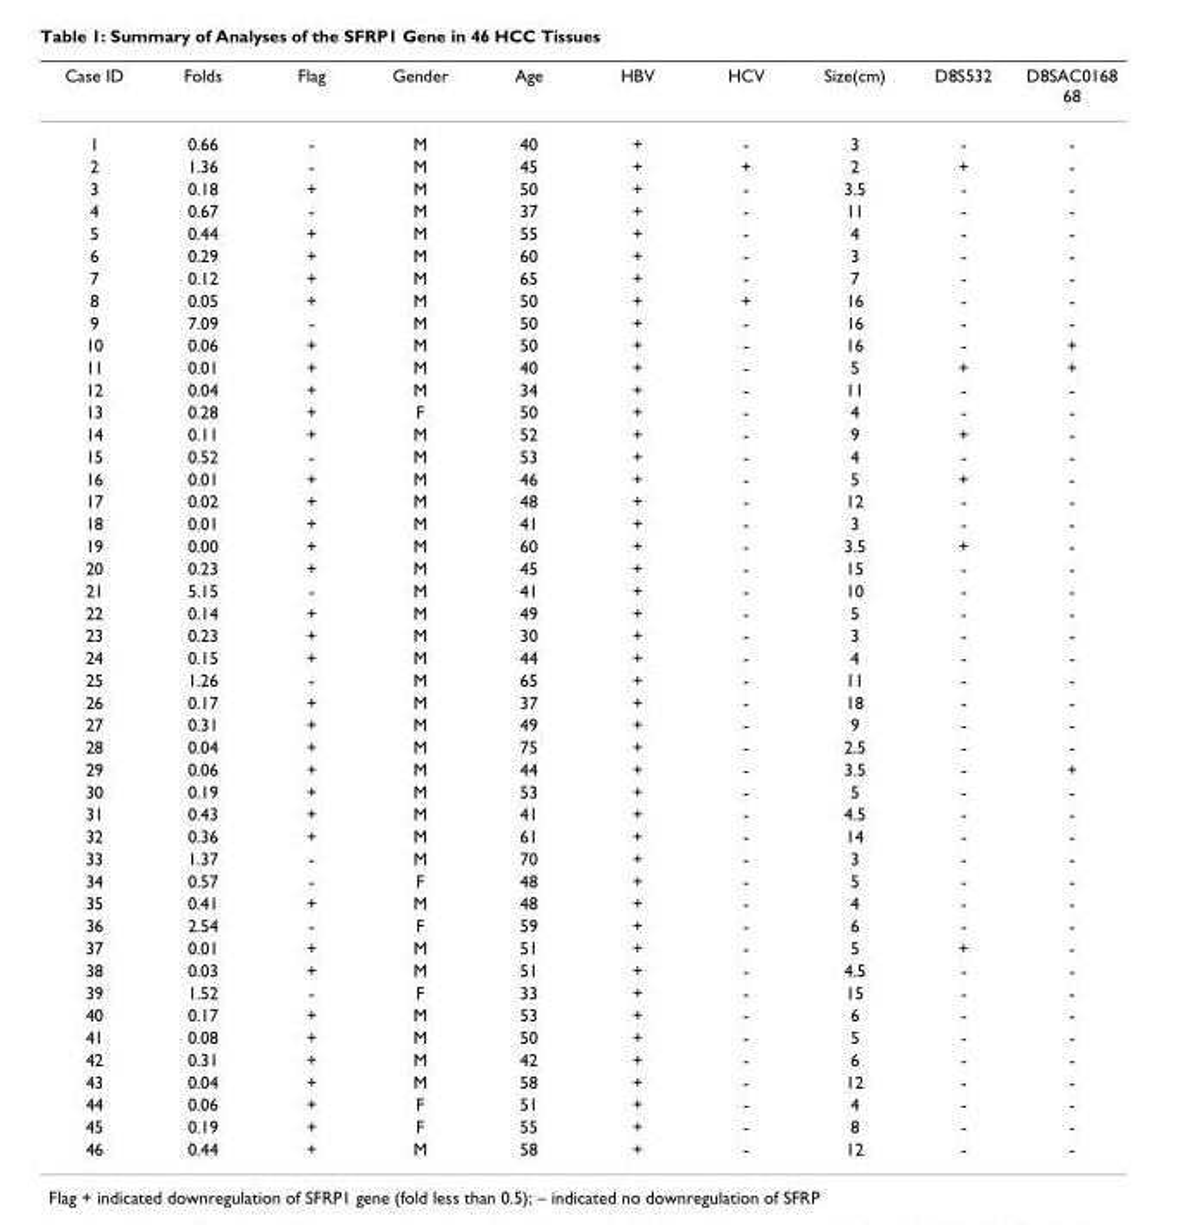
<table><thead><tr><td>Case ID</td><td>Folds</td><td>Flag</td><td>Gender</td><td>Age</td><td>HBV</td><td>HCV</td><td>Size(cm)</td><td>D8S532</td><td>D8SAC0168 68</td></tr></thead><tbody><tr><td>1</td><td>0.66</td><td>-</td><td>M</td><td>40</td><td>+</td><td>-</td><td>3</td><td>-</td><td>-</td></tr><tr><td>2</td><td>1.36</td><td>-</td><td>M</td><td>45</td><td>+</td><td>+</td><td>2</td><td>+</td><td>-</td></tr><tr><td>3</td><td>0.18</td><td>+</td><td>M</td><td>50</td><td>+</td><td>-</td><td>3.5</td><td>-</td><td>-</td></tr><tr><td>4</td><td>0.67</td><td>-</td><td>M</td><td>37</td><td>+</td><td>-</td><td>11</td><td>-</td><td>-</td></tr><tr><td>5</td><td>0.44</td><td>+</td><td>M</td><td>55</td><td>+</td><td>-</td><td>4</td><td>-</td><td>-</td></tr><tr><td>6</td><td>0.29</td><td>+</td><td>M</td><td>60</td><td>+</td><td>-</td><td>3</td><td>-</td><td>-</td></tr><tr><td>7</td><td>0.12</td><td>+</td><td>M</td><td>65</td><td>+</td><td>-</td><td>7</td><td>-</td><td>-</td></tr><tr><td>8</td><td>0.05</td><td>+</td><td>M</td><td>50</td><td>+</td><td>+</td><td>16</td><td>-</td><td>-</td></tr><tr><td>9</td><td>7.09</td><td>-</td><td>M</td><td>50</td><td>+</td><td>-</td><td>16</td><td>-</td><td>-</td></tr><tr><td>10</td><td>0.06</td><td>+</td><td>M</td><td>50</td><td>+</td><td>-</td><td>16</td><td>-</td><td>+</td></tr><tr><td>11</td><td>0.01</td><td>+</td><td>M</td><td>40</td><td>+</td><td>-</td><td>5</td><td>+</td><td>+</td></tr><tr><td>12</td><td>0.04</td><td>+</td><td>M</td><td>34</td><td>+</td><td>-</td><td>11</td><td>-</td><td>-</td></tr><tr><td>13</td><td>0.28</td><td>+</td><td>F</td><td>50</td><td>+</td><td>-</td><td>4</td><td>-</td><td>-</td></tr><tr><td>14</td><td>0.11</td><td>+</td><td>M</td><td>52</td><td>+</td><td>-</td><td>9</td><td>+</td><td>-</td></tr><tr><td>15</td><td>0.52</td><td>-</td><td>M</td><td>53</td><td>+</td><td>-</td><td>4</td><td>-</td><td>-</td></tr><tr><td>16</td><td>0.01</td><td>+</td><td>M</td><td>46</td><td>+</td><td>-</td><td>5</td><td>+</td><td>-</td></tr><tr><td>17</td><td>0.02</td><td>+</td><td>M</td><td>48</td><td>+</td><td>-</td><td>12</td><td>-</td><td>-</td></tr><tr><td>18</td><td>0.01</td><td>+</td><td>M</td><td>41</td><td>+</td><td>-</td><td>3</td><td>-</td><td>-</td></tr><tr><td>19</td><td>0.00</td><td>+</td><td>M</td><td>60</td><td>+</td><td>-</td><td>3.5</td><td>+</td><td>-</td></tr><tr><td>20</td><td>0.23</td><td>+</td><td>M</td><td>45</td><td>+</td><td>-</td><td>15</td><td>-</td><td>-</td></tr><tr><td>21</td><td>5.15</td><td>-</td><td>M</td><td>41</td><td>+</td><td>-</td><td>10</td><td>-</td><td>-</td></tr><tr><td>22</td><td>0.14</td><td>+</td><td>M</td><td>49</td><td>+</td><td>-</td><td>5</td><td>-</td><td>-</td></tr><tr><td>23</td><td>0.23</td><td>+</td><td>M</td><td>30</td><td>+</td><td>-</td><td>3</td><td>-</td><td>-</td></tr><tr><td>24</td><td>0.15</td><td>+</td><td>M</td><td>44</td><td>+</td><td>-</td><td>4</td><td>-</td><td>-</td></tr><tr><td>25</td><td>1.26</td><td>-</td><td>M</td><td>65</td><td>+</td><td>-</td><td>11</td><td>-</td><td>-</td></tr><tr><td>26</td><td>0.17</td><td>+</td><td>M</td><td>37</td><td>+</td><td>-</td><td>18</td><td>-</td><td>-</td></tr><tr><td>27</td><td>0.31</td><td>+</td><td>M</td><td>49</td><td>+</td><td>-</td><td>9</td><td>-</td><td>-</td></tr><tr><td>28</td><td>0.04</td><td>+</td><td>M</td><td>75</td><td>+</td><td>-</td><td>2.5</td><td>-</td><td>-</td></tr><tr><td>29</td><td>0.06</td><td>+</td><td>M</td><td>44</td><td>+</td><td>-</td><td>3.5</td><td>-</td><td>+</td></tr><tr><td>30</td><td>0.19</td><td>+</td><td>M</td><td>53</td><td>+</td><td>-</td><td>5</td><td>-</td><td>-</td></tr><tr><td>31</td><td>0.43</td><td>+</td><td>M</td><td>41</td><td>+</td><td>-</td><td>4.5</td><td>-</td><td>-</td></tr><tr><td>32</td><td>0.36</td><td>+</td><td>M</td><td>61</td><td>+</td><td>-</td><td>14</td><td>-</td><td>-</td></tr><tr><td>33</td><td>1.37</td><td>-</td><td>M</td><td>70</td><td>+</td><td>-</td><td>3</td><td>-</td><td>-</td></tr><tr><td>34</td><td>0.57</td><td>-</td><td>F</td><td>48</td><td>+</td><td>-</td><td>5</td><td>-</td><td>-</td></tr><tr><td>35</td><td>0.41</td><td>+</td><td>M</td><td>48</td><td>+</td><td>-</td><td>4</td><td>-</td><td>-</td></tr><tr><td>36</td><td>2.54</td><td>-</td><td>F</td><td>59</td><td>+</td><td>-</td><td>6</td><td>-</td><td>-</td></tr><tr><td>37</td><td>0.01</td><td>+</td><td>M</td><td>51</td><td>+</td><td>-</td><td>5</td><td>+</td><td>-</td></tr><tr><td>38</td><td>0.03</td><td>+</td><td>M</td><td>51</td><td>+</td><td>-</td><td>4.5</td><td>-</td><td>-</td></tr><tr><td>39</td><td>1.52</td><td>-</td><td>F</td><td>33</td><td>+</td><td>-</td><td>15</td><td>-</td><td>-</td></tr><tr><td>40</td><td>0.17</td><td>+</td><td>M</td><td>53</td><td>+</td><td>-</td><td>6</td><td>-</td><td>-</td></tr><tr><td>41</td><td>0.08</td><td>+</td><td>M</td><td>50</td><td>+</td><td>-</td><td>5</td><td>-</td><td>-</td></tr><tr><td>42</td><td>0.31</td><td>+</td><td>M</td><td>42</td><td>+</td><td>-</td><td>6</td><td>-</td><td>-</td></tr><tr><td>43</td><td>0.04</td><td>+</td><td>M</td><td>58</td><td>+</td><td>-</td><td>12</td><td>-</td><td>-</td></tr><tr><td>44</td><td>0.06</td><td>+</td><td>F</td><td>51</td><td>+</td><td>-</td><td>4</td><td>-</td><td>-</td></tr><tr><td>45</td><td>0.19</td><td>+</td><td>F</td><td>55</td><td>+</td><td>-</td><td>8</td><td>-</td><td>-</td></tr><tr><td>46</td><td>0.44</td><td>+</td><td>M</td><td>58</td><td>+</td><td>-</td><td>12</td><td>-</td><td>-</td></tr></tbody></table>